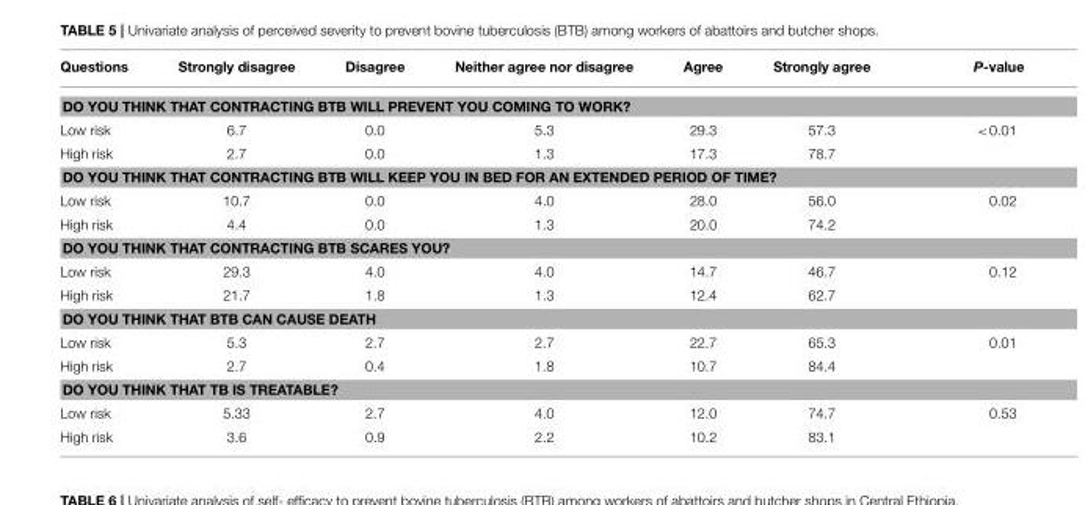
<table><thead><tr><td>Questions</td><td>Strongly disagree</td><td>Disagree</td><td>Neither agree nor disagree</td><td>Agree</td><td>Strongly agree</td><td>P-value</td></tr></thead><tbody><tr><td colspan="7">DO YOU THINK THAT CONTRACTING BTB WILL PREVENT YOU COMING TO WORK?</td></tr><tr><td>Low risk</td><td>6.7</td><td>0.0</td><td>5.3</td><td>29.3</td><td>57.3</td><td>&lt;0.01</td></tr><tr><td>High risk</td><td>2.7</td><td>0.0</td><td>1.3</td><td>17.3</td><td>78.7</td><td></td></tr><tr><td colspan="7">DO YOU THINK THAT CONTRACTING BTB WILL KEEP YOU IN BED FOR AN EXTENDED PERIOD OF TIME?</td></tr><tr><td>Low risk</td><td>10.7</td><td>0.0</td><td>4.0</td><td>28.0</td><td>56.0</td><td>0.02</td></tr><tr><td>High risk</td><td>4.4</td><td>0.0</td><td>1.3</td><td>20.0</td><td>74.2</td><td></td></tr><tr><td colspan="7">DO YOU THINK THAT CONTRACTING BTB SCARES YOU?</td></tr><tr><td>Low risk</td><td>29.3</td><td>4.0</td><td>4.0</td><td>14.7</td><td>46.7</td><td>0.12</td></tr><tr><td>High risk</td><td>21.7</td><td>1.8</td><td>1.3</td><td>12.4</td><td>62.7</td><td></td></tr><tr><td colspan="7">DO YOU THINK THAT BTB CAN CAUSE DEATH</td></tr><tr><td>Low risk</td><td>5.3</td><td>2.7</td><td>2.7</td><td>22.7</td><td>65.3</td><td>0.01</td></tr><tr><td>High risk</td><td>2.7</td><td>0.4</td><td>1.8</td><td>10.7</td><td>84.4</td><td></td></tr><tr><td colspan="7">DO YOU THINK THAT TB IS TREATABLE?</td></tr><tr><td>Low risk</td><td>5.33</td><td>2.7</td><td>4.0</td><td>12.0</td><td>74.7</td><td>0.53</td></tr><tr><td>High risk</td><td>3.6</td><td>0.9</td><td>2.2</td><td>10.2</td><td>83.1</td><td></td></tr></tbody></table>